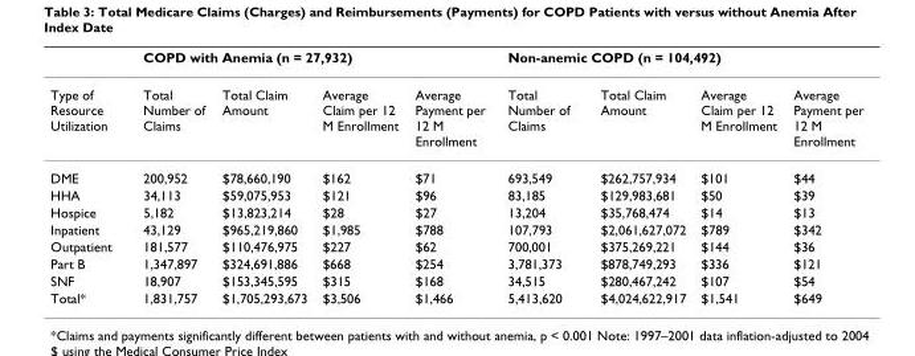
<table><thead><tr><td rowspan="2">Type of Resource Utilization</td><td colspan="4">COPD with Anemia (n = 27,932)</td><td colspan="4">Non-anemic COPD (n = 104,492)</td></tr><tr><td>Total Number of Claims</td><td>Total Claim Amount</td><td>Average Claim per 12 M Enrollment</td><td>Average Payment per 12 M Enrollment</td><td>Total Number of Claims</td><td>Total Claim Amount</td><td>Average Claim per 12 M Enrollment</td><td>Average Payment per 12 M Enrollment</td></tr></thead><tbody><tr><td>DME</td><td>200,952</td><td>$78,660,190</td><td>$162</td><td>$71</td><td>693,549</td><td>$262,757,934</td><td>$101</td><td>$44</td></tr><tr><td>HHA</td><td>34,113</td><td>$59,075,953</td><td>$121</td><td>$96</td><td>83,185</td><td>$129,983,681</td><td>$50</td><td>$39</td></tr><tr><td>Hospice</td><td>5,182</td><td>$13,823,214</td><td>$28</td><td>$27</td><td>13,204</td><td>$35,768,474</td><td>$14</td><td>$13</td></tr><tr><td>Inpatient</td><td>43,129</td><td>$965,219,860</td><td>$1,985</td><td>$788</td><td>107,793</td><td>$2,061,627,072</td><td>$789</td><td>$342</td></tr><tr><td>Outpatient</td><td>181,577</td><td>$110,476,975</td><td>$227</td><td>$62</td><td>700,001</td><td>$375,269,221</td><td>$144</td><td>$36</td></tr><tr><td>Part B</td><td>1,347,897</td><td>$324,691,886</td><td>$668</td><td>$254</td><td>3,781,373</td><td>$878,749,293</td><td>$336</td><td>$121</td></tr><tr><td>SNF</td><td>18,907</td><td>$153,345,595</td><td>$315</td><td>$168</td><td>34,515</td><td>$280,467,242</td><td>$107</td><td>$54</td></tr><tr><td>Total*</td><td>1,831,757</td><td>$1,705,293,673</td><td>$3,506</td><td>$1,466</td><td>5,413,620</td><td>$4,024,622,917</td><td>$1,541</td><td>$649</td></tr></tbody></table>